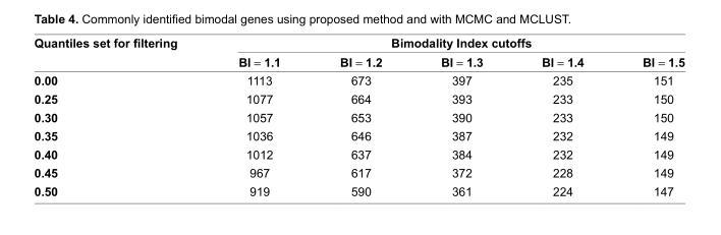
<table><thead><tr><td rowspan="2">Quantiles set for filtering</td><td colspan="5">Bimodality Index cutoffs</td></tr><tr><td>BI = 1.1</td><td>BI = 1.2</td><td>BI = 1.3</td><td>BI = 1.4</td><td>BI = 1.5</td></tr></thead><tbody><tr><td>0.00</td><td>1113</td><td>673</td><td>397</td><td>235</td><td>151</td></tr><tr><td>0.25</td><td>1077</td><td>664</td><td>393</td><td>233</td><td>150</td></tr><tr><td>0.30</td><td>1057</td><td>653</td><td>390</td><td>233</td><td>150</td></tr><tr><td>0.35</td><td>1036</td><td>646</td><td>387</td><td>232</td><td>149</td></tr><tr><td>0.40</td><td>1012</td><td>637</td><td>384</td><td>232</td><td>149</td></tr><tr><td>0.45</td><td>967</td><td>617</td><td>372</td><td>228</td><td>149</td></tr><tr><td>0.50</td><td>919</td><td>590</td><td>361</td><td>224</td><td>147</td></tr></tbody></table>